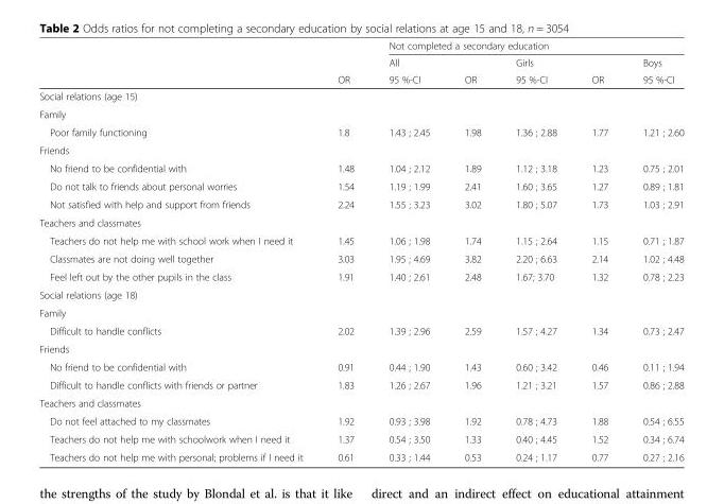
<table><thead><tr><td rowspan="3"></td><td rowspan="3">OR</td><td colspan="5">Not completed a secondary education</td></tr><tr><td rowspan="2">All 95 %-CI</td><td rowspan="2">OR</td><td rowspan="2">Girls 95 %-CI</td><td rowspan="2">OR</td><td rowspan="2">Boys 95 %-CI</td></tr><tr></tr></thead><tbody><tr><td colspan="7">Social relations (age 15)</td></tr><tr><td colspan="7">Family</td></tr><tr><td>Poor family functioning</td><td>1.8</td><td>1.43 ; 2.45</td><td>1.98</td><td>1.36 ; 2.88</td><td>1.77</td><td>1.21 ; 2.60</td></tr><tr><td colspan="7">Friends</td></tr><tr><td>No friend to be confidential with</td><td>1.48</td><td>1.04 ; 2.12</td><td>1.89</td><td>1.12 ; 3.18</td><td>1.23</td><td>0.75 ; 2.01</td></tr><tr><td>Do not talk to friends about personal worries</td><td>1.54</td><td>1.19 ; 1.99</td><td>2.41</td><td>1.60 ; 3.65</td><td>1.27</td><td>0.89 ; 1.81</td></tr><tr><td>Not satisfied with help and support from friends</td><td>2.24</td><td>1.55 ; 3.23</td><td>3.02</td><td>1.80 ; 5.07</td><td>1.73</td><td>1.03 ; 2.91</td></tr><tr><td colspan="7">Teachers and classmates</td></tr><tr><td>Teachers do not help me with school work when I need it</td><td>1.45</td><td>1.06 ; 1.98</td><td>1.74</td><td>1.15 ; 2.64</td><td>1.15</td><td>0.71 ; 1.87</td></tr><tr><td>Classmates are not doing well together</td><td>3.03</td><td>1.95 ; 4.69</td><td>3.82</td><td>2.20 ; 6.63</td><td>2.14</td><td>1.02 ; 4.48</td></tr><tr><td>Feel left out by the other pupils in the class</td><td>1.91</td><td>1.40 ; 2.61</td><td>2.48</td><td>1.67; 3.70</td><td>1.32</td><td>0.78 ; 2.23</td></tr><tr><td colspan="7">Social relations (age 18)</td></tr><tr><td colspan="7">Family</td></tr><tr><td>Difficult to handle conflicts</td><td>2.02</td><td>1.39 ; 2.96</td><td>2.59</td><td>1.57 ; 4.27</td><td>1.34</td><td>0.73 ; 2.47</td></tr><tr><td colspan="7">Friends</td></tr><tr><td>No friend to be confidential with</td><td>0.91</td><td>0.44 ; 1.90</td><td>1.43</td><td>0.60 ; 3.42</td><td>0.46</td><td>0.11 ; 1.94</td></tr><tr><td>Difficult to handle conflicts with friends or partner</td><td>1.83</td><td>1.26 ; 2.67</td><td>1.96</td><td>1.21 ; 3.21</td><td>1.57</td><td>0.86 ; 2.88</td></tr><tr><td colspan="7">Teachers and classmates</td></tr><tr><td>Do not feel attached to my classmates</td><td>1.92</td><td>0.93 ; 3.98</td><td>1.92</td><td>0.78 ; 4.73</td><td>1.88</td><td>0.54 ; 6.55</td></tr><tr><td>Teachers do not help me with schoolwork when I need it</td><td>1.37</td><td>0.54 ; 3.50</td><td>1.33</td><td>0.40 ; 4.45</td><td>1.52</td><td>0.34 ; 6.74</td></tr><tr><td>Teachers do not help me with personal; problems if I need it</td><td>0.61</td><td>0.33 ; 1.44</td><td>0.53</td><td>0.24 ; 1.17</td><td>0.77</td><td>0.27 ; 2.16</td></tr></tbody></table>